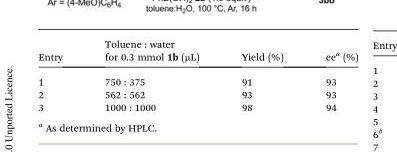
<table><thead><tr><td>Entry</td><td>Toluene : water for 0.3 mmol 1b (μL)</td><td>Yield (%)</td><td>ee<sup>a</sup> (%)</td></tr></thead><tbody><tr><td>1</td><td>750 : 375</td><td>91</td><td>93</td></tr><tr><td>2</td><td>562 : 562</td><td>93</td><td>93</td></tr><tr><td>3</td><td>1000 : 1000</td><td>98</td><td>94</td></tr></tbody></table>